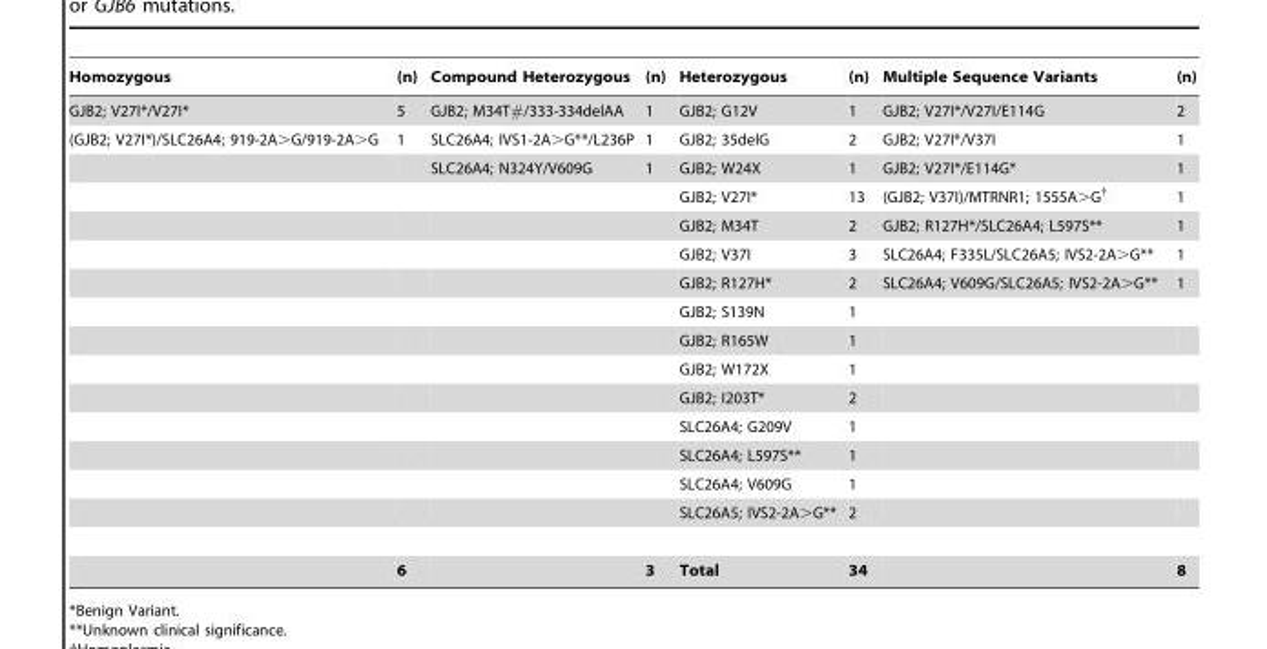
<table><thead><tr><td>Homozygous</td><td>(n)</td><td>Compound Heterozygous</td><td>(n)</td><td>Heterozygous</td><td>(n)</td><td>Multiple Sequence Variants</td><td>(n)</td></tr></thead><tbody><tr><td>GJB2; V27I*/V27I*</td><td>5</td><td>GJB2; M34T#/333-334delAA</td><td>1</td><td>GJB2; G12V</td><td>1</td><td>GJB2; V27I*/V27I/E114G</td><td>2</td></tr><tr><td rowspan="15">(GJB2; V27I*)/SLC26A4; 919-2A&gt;G/919-2A&gt;G</td><td>1</td><td>SLC26A4; IVS1-2A&gt;G**/L236P</td><td>1</td><td>GJB2; 35delG</td><td>2</td><td>GJB2; V27I*/V37I</td><td>1</td></tr><tr><td></td><td>SLC26A4; N324Y/V609G</td><td>1</td><td>GJB2; W24X</td><td>1</td><td>GJB2; V27I*/E114G*</td><td>1</td></tr><tr><td></td><td></td><td></td><td>GJB2; V27I*</td><td>13</td><td>(GJB2; V37I)/MTRNR1; 1555A&gt;G†</td><td>1</td></tr><tr><td></td><td></td><td></td><td>GJB2; M34T</td><td>2</td><td>GJB2; R127H*/SLC26A4; L597S**</td><td>1</td></tr><tr><td></td><td></td><td></td><td>GJB2; V37I</td><td>3</td><td>SLC26A4; F335L/SLC26A5; IVS2-2A&gt;G**</td><td>1</td></tr><tr><td></td><td></td><td></td><td>GJB2; R127H*</td><td>2</td><td>SLC26A4; V609G/SLC26A5; IVS2-2A&gt;G**</td><td>1</td></tr><tr><td></td><td></td><td></td><td>GJB2; S139N</td><td>1</td><td></td><td></td></tr><tr><td></td><td></td><td></td><td>GJB2; R165W</td><td>1</td><td></td><td></td></tr><tr><td></td><td></td><td></td><td>GJB2; W172X</td><td>1</td><td></td><td></td></tr><tr><td></td><td></td><td></td><td>GJB2; I203T*</td><td>2</td><td></td><td></td></tr><tr><td></td><td></td><td></td><td>SLC26A4; G209V</td><td>1</td><td></td><td></td></tr><tr><td></td><td></td><td></td><td>SLC26A4; L597S**</td><td>1</td><td></td><td></td></tr><tr><td></td><td></td><td></td><td>SLC26A4; V609G</td><td>1</td><td></td><td></td></tr><tr><td></td><td></td><td></td><td>SLC26A5; IVS2-2A&gt;G**</td><td>2</td><td></td><td></td></tr><tr><td>6</td><td></td><td>3</td><td>Total</td><td>34</td><td></td><td>8</td></tr></tbody></table>